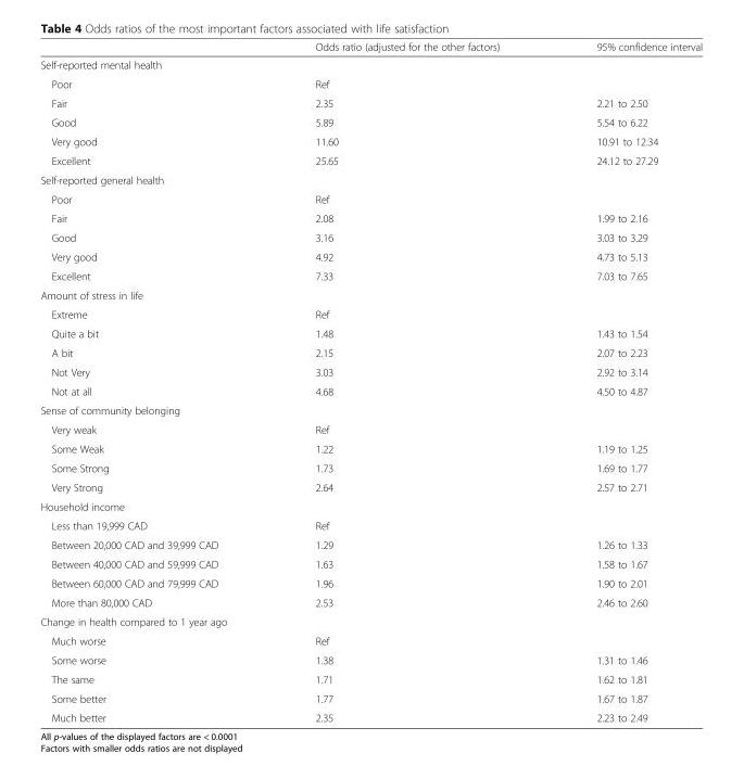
<table><thead><tr><td></td><td>Odds ratio (adjusted for the other factors)</td><td>95% confidence interval</td></tr></thead><tbody><tr><td colspan="3">Self-reported mental health</td></tr><tr><td>Poor</td><td>Ref</td><td></td></tr><tr><td>Fair</td><td>2.35</td><td>2.21 to 2.50</td></tr><tr><td>Good</td><td>5.89</td><td>5.54 to 6.22</td></tr><tr><td>Very good</td><td>11.60</td><td>10.91 to 12.34</td></tr><tr><td>Excellent</td><td>25.65</td><td>24.12 to 27.29</td></tr><tr><td colspan="3">Self-reported general health</td></tr><tr><td>Poor</td><td>Ref</td><td></td></tr><tr><td>Fair</td><td>2.08</td><td>1.99 to 2.16</td></tr><tr><td>Good</td><td>3.16</td><td>3.03 to 3.29</td></tr><tr><td>Very good</td><td>4.92</td><td>4.73 to 5.13</td></tr><tr><td>Excellent</td><td>7.33</td><td>7.03 to 7.65</td></tr><tr><td colspan="3">Amount of stress in life</td></tr><tr><td>Extreme</td><td>Ref</td><td></td></tr><tr><td>Quite a bit</td><td>1.48</td><td>1.43 to 1.54</td></tr><tr><td>A bit</td><td>2.15</td><td>2.07 to 2.23</td></tr><tr><td>Not Very</td><td>3.03</td><td>2.92 to 3.14</td></tr><tr><td>Not at all</td><td>4.68</td><td>4.50 to 4.87</td></tr><tr><td colspan="3">Sense of community belonging</td></tr><tr><td>Very weak</td><td>Ref</td><td></td></tr><tr><td>Some Weak</td><td>1.22</td><td>1.19 to 1.25</td></tr><tr><td>Some Strong</td><td>1.73</td><td>1.69 to 1.77</td></tr><tr><td>Very Strong</td><td>2.64</td><td>2.57 to 2.71</td></tr><tr><td colspan="3">Household income</td></tr><tr><td>Less than 19,999 CAD</td><td>Ref</td><td></td></tr><tr><td>Between 20,000 CAD and 39,999 CAD</td><td>1.29</td><td>1.26 to 1.33</td></tr><tr><td>Between 40,000 CAD and 59,999 CAD</td><td>1.63</td><td>1.58 to 1.67</td></tr><tr><td>Between 60,000 CAD and 79,999 CAD</td><td>1.96</td><td>1.90 to 2.01</td></tr><tr><td>More than 80,000 CAD</td><td>2.53</td><td>2.46 to 2.60</td></tr><tr><td colspan="3">Change in health compared to 1 year ago</td></tr><tr><td>Much worse</td><td>Ref</td><td></td></tr><tr><td>Some worse</td><td>1.38</td><td>1.31 to 1.46</td></tr><tr><td>The same</td><td>1.71</td><td>1.62 to 1.81</td></tr><tr><td>Some better</td><td>1.77</td><td>1.67 to 1.87</td></tr><tr><td>Much better</td><td>2.35</td><td>2.23 to 2.49</td></tr></tbody></table>